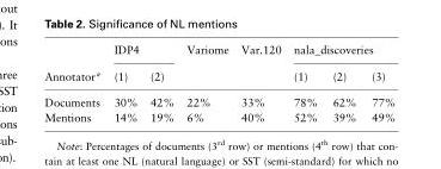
<table><thead><tr><td rowspan="2">Annotator*</td><td colspan="2">IDP4</td><td rowspan="2">Variome</td><td rowspan="2">Var.120</td><td colspan="3">nala_discoveries</td></tr><tr><td>(1)</td><td>(2)</td><td>(1)</td><td>(2)</td><td>(3)</td></tr></thead><tbody><tr><td>Documents</td><td>30%</td><td>42%</td><td>22%</td><td>33%</td><td>78%</td><td>62%</td><td>77%</td></tr><tr><td>Mentions</td><td>14%</td><td>19%</td><td>6%</td><td>40%</td><td>52%</td><td>39%</td><td>49%</td></tr></tbody></table>